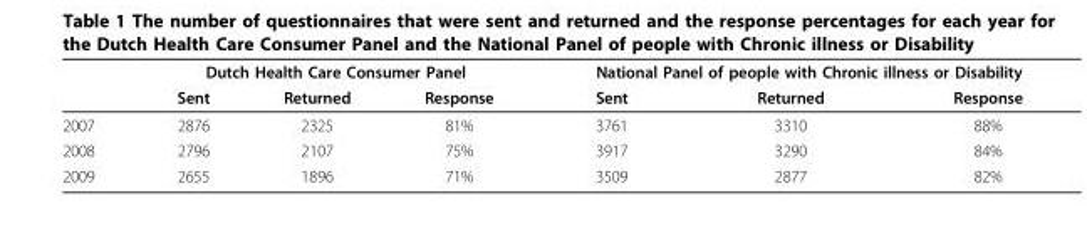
<table><thead><tr><td rowspan="2"></td><td colspan="3">Dutch Health Care Consumer Panel</td><td colspan="3">National Panel of people with Chronic illness or Disability</td></tr><tr><td>Sent</td><td>Returned</td><td>Response</td><td>Sent</td><td>Returned</td><td>Response</td></tr></thead><tbody><tr><td>2007</td><td>2876</td><td>2325</td><td>81%</td><td>3761</td><td>3310</td><td>88%</td></tr><tr><td>2008</td><td>2796</td><td>2107</td><td>75%</td><td>3917</td><td>3290</td><td>84%</td></tr><tr><td>2009</td><td>2655</td><td>1896</td><td>71%</td><td>3509</td><td>2877</td><td>82%</td></tr></tbody></table>